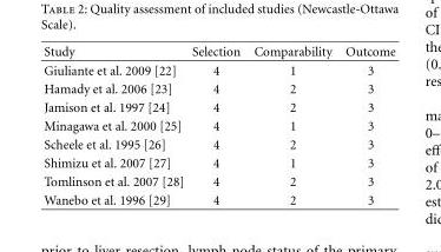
<table><thead><tr><td>Study</td><td>Selection</td><td>Comparability</td><td>Outcome</td></tr></thead><tbody><tr><td>Giuliante et al. 2009 [22]</td><td>4</td><td>1</td><td>3</td></tr><tr><td>Hamady et al. 2006 [23]</td><td>4</td><td>2</td><td>3</td></tr><tr><td>Jamison et al. 1997 [24]</td><td>4</td><td>2</td><td>3</td></tr><tr><td>Minagawa et al. 2000 [25]</td><td>4</td><td>1</td><td>3</td></tr><tr><td>Scheele et al. 1995 [26]</td><td>4</td><td>2</td><td>3</td></tr><tr><td>Shimizu et al. 2007 [27]</td><td>4</td><td>1</td><td>3</td></tr><tr><td>Tomlinson et al. 2007 [28]</td><td>4</td><td>2</td><td>3</td></tr><tr><td>Wanebo et al. 1996 [29]</td><td>4</td><td>2</td><td>3</td></tr></tbody></table>